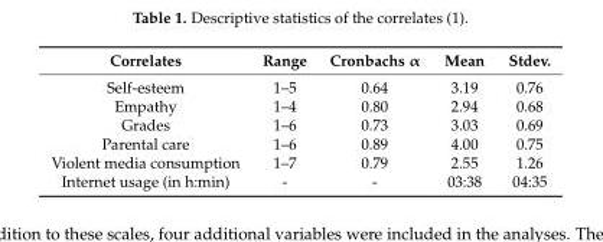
<table><thead><tr><td>Correlates</td><td>Range</td><td>Cronbachs α</td><td>Mean</td><td>Stdev.</td></tr></thead><tbody><tr><td>Self-esteem</td><td>1–5</td><td>0.64</td><td>3.19</td><td>0.76</td></tr><tr><td>Empathy</td><td>1–4</td><td>0.80</td><td>2.94</td><td>0.68</td></tr><tr><td>Grades</td><td>1–6</td><td>0.73</td><td>3.03</td><td>0.69</td></tr><tr><td>Parental care</td><td>1–6</td><td>0.89</td><td>4.00</td><td>0.75</td></tr><tr><td>Violent media consumption</td><td>1–7</td><td>0.79</td><td>2.55</td><td>1.26</td></tr><tr><td>Internet usage (in h:min)</td><td>-</td><td>-</td><td>03:38</td><td>04:35</td></tr></tbody></table>